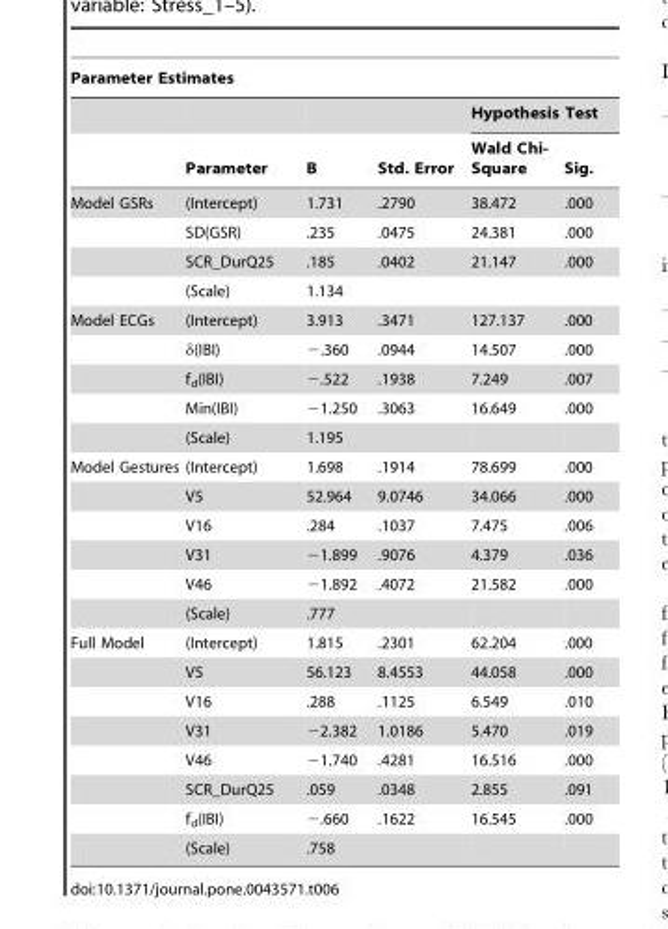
<table><thead><tr><td colspan="6">Parameter Estimates</td></tr><tr><td rowspan="2"></td><td rowspan="2">Parameter</td><td rowspan="2">B</td><td rowspan="2">Std. Error</td><td colspan="2">Hypothesis Test</td></tr><tr><td>Wald Chi- Square</td><td>Sig.</td></tr></thead><tbody><tr><td rowspan="4">Model GSRs</td><td>(Intercept)</td><td>1.731</td><td>.2790</td><td>38.472</td><td>.000</td></tr><tr><td>SD(GSR)</td><td>.235</td><td>.0475</td><td>24.381</td><td>.000</td></tr><tr><td>SCR_DurQ25</td><td>.185</td><td>.0402</td><td>21.147</td><td>.000</td></tr><tr><td>(Scale)</td><td>1.134</td><td></td><td></td><td></td></tr><tr><td rowspan="5">Model ECGs</td><td>(Intercept)</td><td>3.913</td><td>.3471</td><td>127.137</td><td>.000</td></tr><tr><td>δ(IBI)</td><td>−.360</td><td>.0944</td><td>14.507</td><td>.000</td></tr><tr><td>f<sub>d</sub>(IBI)</td><td>−.522</td><td>.1938</td><td>7.249</td><td>.007</td></tr><tr><td>Min(IBI)</td><td>−1.250</td><td>.3063</td><td>16.649</td><td>.000</td></tr><tr><td>(Scale)</td><td>1.195</td><td></td><td></td><td></td></tr><tr><td rowspan="6">Model Gestures</td><td>(Intercept)</td><td>1.698</td><td>.1914</td><td>78.699</td><td>.000</td></tr><tr><td>V5</td><td>52.964</td><td>9.0746</td><td>34.066</td><td>.000</td></tr><tr><td>V16</td><td>.284</td><td>.1037</td><td>7.475</td><td>.006</td></tr><tr><td>V31</td><td>−1.899</td><td>.9076</td><td>4.379</td><td>.036</td></tr><tr><td>V46</td><td>−1.892</td><td>.4072</td><td>21.582</td><td>.000</td></tr><tr><td>(Scale)</td><td>.777</td><td></td><td></td><td></td></tr><tr><td rowspan="8">Full Model</td><td>(Intercept)</td><td>1.815</td><td>.2301</td><td>62.204</td><td>.000</td></tr><tr><td>V5</td><td>56.123</td><td>8.4553</td><td>44.058</td><td>.000</td></tr><tr><td>V16</td><td>.288</td><td>.1125</td><td>6.549</td><td>.010</td></tr><tr><td>V31</td><td>−2.382</td><td>1.0186</td><td>5.470</td><td>.019</td></tr><tr><td>V46</td><td>−1.740</td><td>.4281</td><td>16.516</td><td>.000</td></tr><tr><td>SCR_DurQ25</td><td>.059</td><td>.0348</td><td>2.855</td><td>.091</td></tr><tr><td>f<sub>d</sub>(IBI)</td><td>−.660</td><td>.1622</td><td>16.545</td><td>.000</td></tr><tr><td>(Scale)</td><td>.758</td><td></td><td></td><td></td></tr></tbody></table>